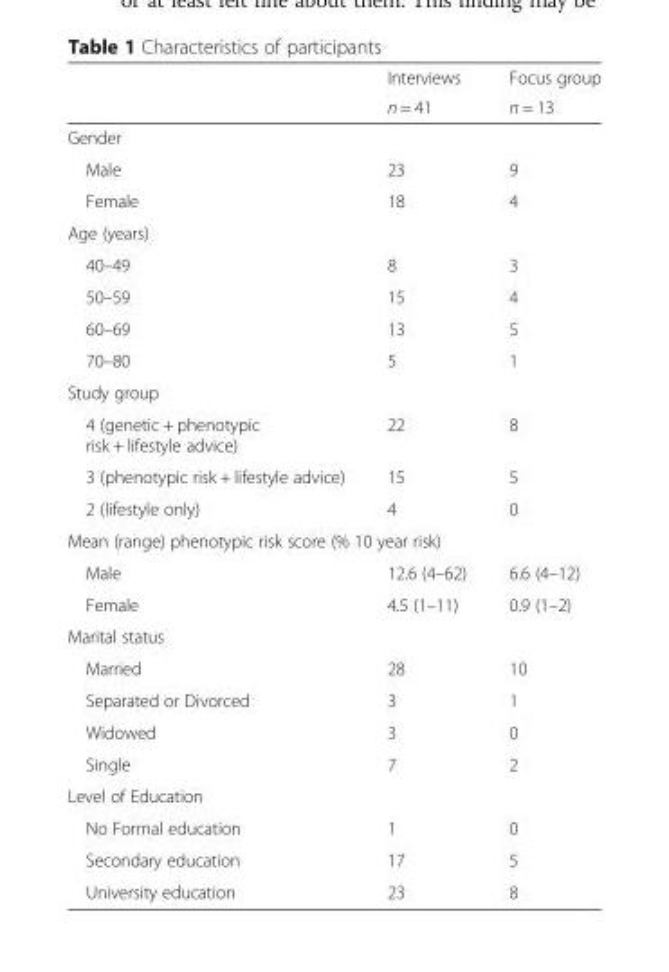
<table><thead><tr><td rowspan="2"></td><td rowspan="2">Interviews n = 41</td><td rowspan="2">Focus group n = 13</td></tr><tr></tr></thead><tbody><tr><td colspan="3">Gender</td></tr><tr><td>Male</td><td>23</td><td>9</td></tr><tr><td>Female</td><td>18</td><td>4</td></tr><tr><td colspan="3">Age (years)</td></tr><tr><td>40–49</td><td>8</td><td>3</td></tr><tr><td>50–59</td><td>15</td><td>4</td></tr><tr><td>60–69</td><td>13</td><td>5</td></tr><tr><td>70–80</td><td>5</td><td>1</td></tr><tr><td colspan="3">Study group</td></tr><tr><td>4 (genetic + phenotypic risk + lifestyle advice)</td><td>22</td><td>8</td></tr><tr><td>3 (phenotypic risk + lifestyle advice)</td><td>15</td><td>5</td></tr><tr><td>2 (lifestyle only)</td><td>4</td><td>0</td></tr><tr><td colspan="3">Mean (range) phenotypic risk score (% 10 year risk)</td></tr><tr><td>Male</td><td>12.6 (4–62)</td><td>6.6 (4–12)</td></tr><tr><td>Female</td><td>4.5 (1–11)</td><td>0.9 (1–2)</td></tr><tr><td colspan="3">Marital status</td></tr><tr><td>Married</td><td>28</td><td>10</td></tr><tr><td>Separated or Divorced</td><td>3</td><td>1</td></tr><tr><td>Widowed</td><td>3</td><td>0</td></tr><tr><td>Single</td><td>7</td><td>2</td></tr><tr><td colspan="3">Level of Education</td></tr><tr><td>No Formal education</td><td>1</td><td>0</td></tr><tr><td>Secondary education</td><td>17</td><td>5</td></tr><tr><td>University education</td><td>23</td><td>8</td></tr></tbody></table>